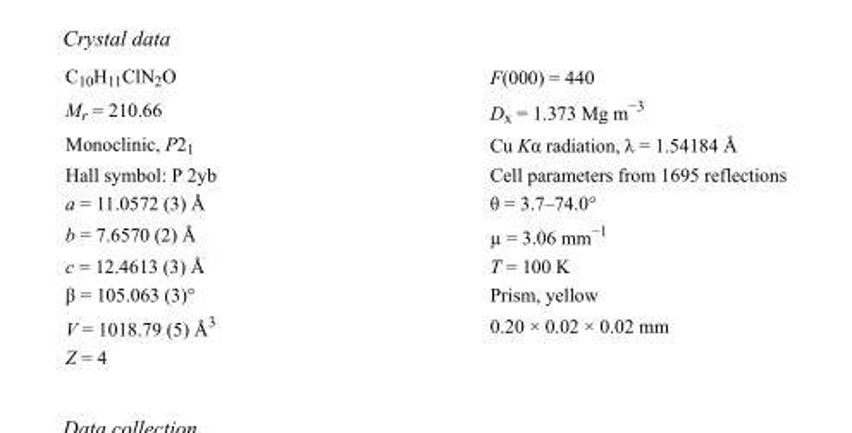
<table><tbody><tr><td>C<sub>10</sub>H<sub>11</sub>ClN<sub>2</sub>O</td><td>F(000) = 440</td></tr><tr><td>M<sub>r</sub> = 210.66</td><td>D<sub>x</sub> = 1.373 Mg m<sup>−3</sup></td></tr><tr><td>Monoclinic, P2<sub>1</sub></td><td>Cu Kα radiation, λ = 1.54184 Å</td></tr><tr><td>Hall symbol: P 2yb</td><td>Cell parameters from 1695 reflections</td></tr><tr><td>a = 11.0572 (3) Å</td><td>θ = 3.7–74.0°</td></tr><tr><td>b = 7.6570 (2) Å</td><td>µ = 3.06 mm<sup>−1</sup></td></tr><tr><td>c = 12.4613 (3) Å</td><td>T = 100 K</td></tr><tr><td>β = 105.063 (3)°</td><td>Prism, yellow</td></tr><tr><td>V = 1018.79 (5) Å<sup>3</sup></td><td>0.20 × 0.02 × 0.02 mm</td></tr><tr><td>Z = 4</td><td></td></tr></tbody></table>